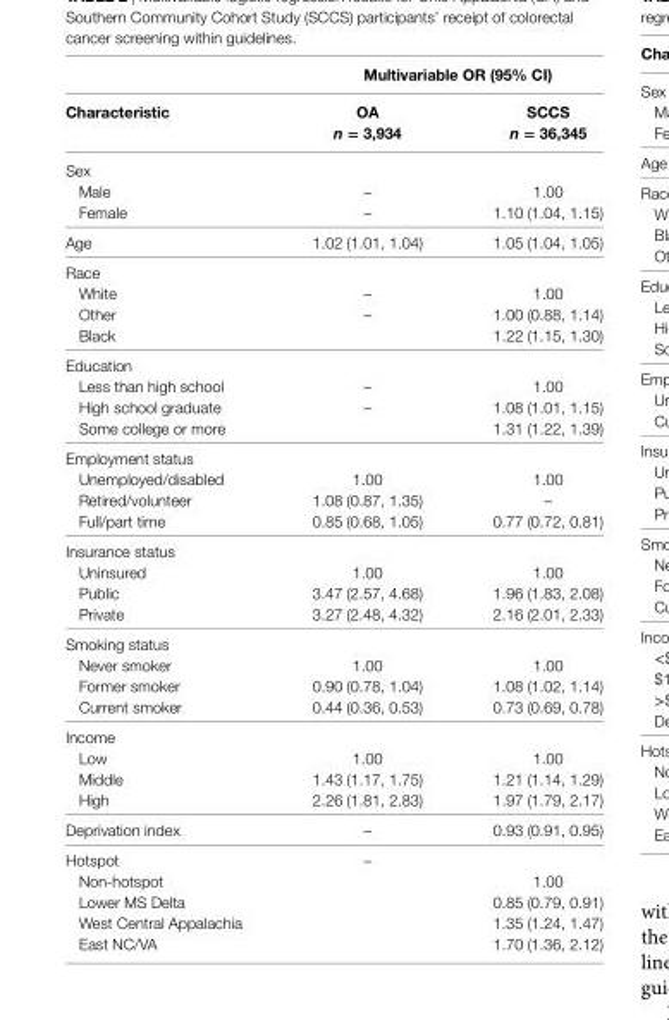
<table><thead><tr><td rowspan="2">characteristic</td><td colspan="2">Multivariable Or (95% ci)</td></tr><tr><td>Oa n = 3,934</td><td>sccs n = 36,345</td></tr></thead><tbody><tr><td colspan="3">Sex</td></tr><tr><td>Male</td><td>–</td><td>1.00</td></tr><tr><td>Female</td><td>–</td><td>1.10 (1.04, 1.15)</td></tr><tr><td>Age</td><td>1.02 (1.01, 1.04)</td><td>1.05 (1.04, 1.05)</td></tr><tr><td colspan="3">Race</td></tr><tr><td>White</td><td>–</td><td>1.00</td></tr><tr><td>Other</td><td>–</td><td>1.00 (0.88, 1.14)</td></tr><tr><td>Black</td><td></td><td>1.22 (1.15, 1.30)</td></tr><tr><td colspan="3">Education</td></tr><tr><td>Less than high school</td><td>–</td><td>1.00</td></tr><tr><td>High school graduate</td><td>–</td><td>1.08 (1.01, 1.15)</td></tr><tr><td>Some college or more</td><td></td><td>1.31 (1.22, 1.39)</td></tr><tr><td colspan="3">Employment status</td></tr><tr><td>Unemployed/disabled</td><td>1.00</td><td>1.00</td></tr><tr><td>Retired/volunteer</td><td>1.08 (0.87, 1.35)</td><td>–</td></tr><tr><td>Full/part time</td><td>0.85 (0.68, 1.05)</td><td>0.77 (0.72, 0.81)</td></tr><tr><td colspan="3">Insurance status</td></tr><tr><td>Uninsured</td><td>1.00</td><td>1.00</td></tr><tr><td>Public</td><td>3.47 (2.57, 4.68)</td><td>1.96 (1.83, 2.08)</td></tr><tr><td>Private</td><td>3.27 (2.48, 4.32)</td><td>2.16 (2.01, 2.33)</td></tr><tr><td colspan="3">Smoking status</td></tr><tr><td>Never smoker</td><td>1.00</td><td>1.00</td></tr><tr><td>Former smoker</td><td>0.90 (0.78, 1.04)</td><td>1.08 (1.02, 1.14)</td></tr><tr><td>Current smoker</td><td>0.44 (0.36, 0.53)</td><td>0.73 (0.69, 0.78)</td></tr><tr><td colspan="3">Income</td></tr><tr><td>Low</td><td>1.00</td><td>1.00</td></tr><tr><td>Middle</td><td>1.43 (1.17, 1.75)</td><td>1.21 (1.14, 1.29)</td></tr><tr><td>High</td><td>2.26 (1.81, 2.83)</td><td>1.97 (1.79, 2.17)</td></tr><tr><td>Deprivation index</td><td>–</td><td>0.93 (0.91, 0.95)</td></tr><tr><td>Hotspot</td><td>–</td><td></td></tr><tr><td>Non-hotspot</td><td></td><td>1.00</td></tr><tr><td>Lower MS Delta</td><td></td><td>0.85 (0.79, 0.91)</td></tr><tr><td>West Central Appalachia</td><td></td><td>1.35 (1.24, 1.47)</td></tr><tr><td>East NC/VA</td><td></td><td>1.70 (1.36, 2.12)</td></tr></tbody></table>